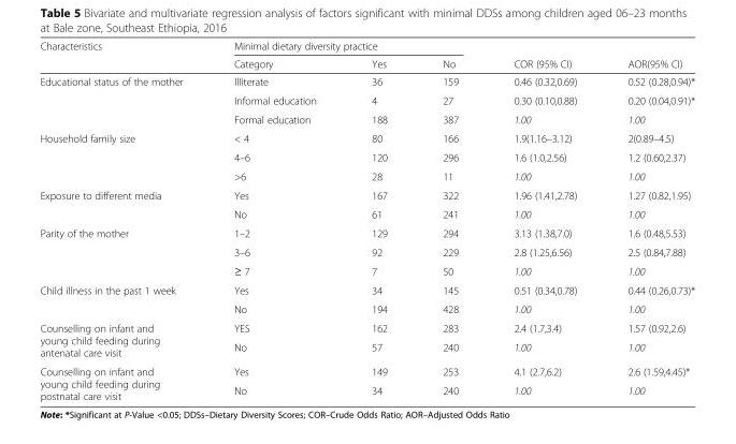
<table><thead><tr><td rowspan="2">Characteristics</td><td colspan="3">Minimal dietary diversity practice</td><td rowspan="2">COR (95% CI)</td><td rowspan="2">AOR(95% CI)</td></tr><tr><td>Category</td><td>Yes</td><td>No</td></tr></thead><tbody><tr><td rowspan="3">Educational status of the mother</td><td>Illiterate</td><td>36</td><td>159</td><td>0.46 (0.32,0.69)</td><td>0.52 (0.28,0.94)*</td></tr><tr><td>Informal education</td><td>4</td><td>27</td><td>0.30 (0.10,0.88)</td><td>0.20 (0.04,0.91)*</td></tr><tr><td>Formal education</td><td>188</td><td>387</td><td>1.00</td><td>1.00</td></tr><tr><td rowspan="3">Household family size</td><td>&lt; 4</td><td>80</td><td>166</td><td>1.9(1.16–3.12)</td><td>2(0.89–4.5)</td></tr><tr><td>4–6</td><td>120</td><td>296</td><td>1.6 (1.0,2.56)</td><td>1.2 (0.60,2.37)</td></tr><tr><td>&gt;6</td><td>28</td><td>11</td><td>1.00</td><td>1.00</td></tr><tr><td rowspan="2">Exposure to different media</td><td>Yes</td><td>167</td><td>322</td><td>1.96 (1.41,2.78)</td><td>1.27 (0.82,1.95)</td></tr><tr><td>No</td><td>61</td><td>241</td><td>1.00</td><td>1.00</td></tr><tr><td rowspan="3">Parity of the mother</td><td>1–2</td><td>129</td><td>294</td><td>3.13 (1.38,7.0)</td><td>1.6 (0.48,5.53)</td></tr><tr><td>3–6</td><td>92</td><td>229</td><td>2.8 (1.25,6.56)</td><td>2.5 (0.84,7.88)</td></tr><tr><td>≥ 7</td><td>7</td><td>50</td><td>1.00</td><td>1.00</td></tr><tr><td rowspan="2">Child illness in the past 1 week</td><td>Yes</td><td>34</td><td>145</td><td>0.51 (0.34,0.78)</td><td>0.44 (0.26,0.73)*</td></tr><tr><td>No</td><td>194</td><td>428</td><td>1.00</td><td>1.00</td></tr><tr><td rowspan="2">Counselling on infant and young child feeding during antenatal care visit</td><td>YES</td><td>162</td><td>283</td><td>2.4 (1.7,3.4)</td><td>1.57 (0.92,2.6)</td></tr><tr><td>No</td><td>57</td><td>240</td><td>1.00</td><td>1.00</td></tr><tr><td rowspan="2">Counselling on infant and young child feeding during postnatal care visit</td><td>Yes</td><td>149</td><td>253</td><td>4.1 (2.7,6.2)</td><td>2.6 (1.59,4.45)*</td></tr><tr><td>No</td><td>34</td><td>240</td><td>1.00</td><td>1.00</td></tr></tbody></table>